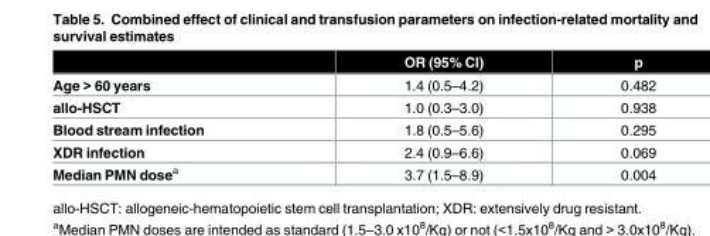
<table><thead><tr><td></td><td>OR (95% CI)</td><td>p</td></tr></thead><tbody><tr><td>Age &gt; 60 years</td><td>1.4 (0.5–4.2)</td><td>0.482</td></tr><tr><td>allo-HSCT</td><td>1.0 (0.3–3.0)</td><td>0.938</td></tr><tr><td>Blood stream infection</td><td>1.8 (0.5–5.6)</td><td>0.295</td></tr><tr><td>XDR infection</td><td>2.4 (0.9–6.6)</td><td>0.069</td></tr><tr><td>Median PMN dose<sup>a</sup></td><td>3.7 (1.5–8.9)</td><td>0.004</td></tr></tbody></table>